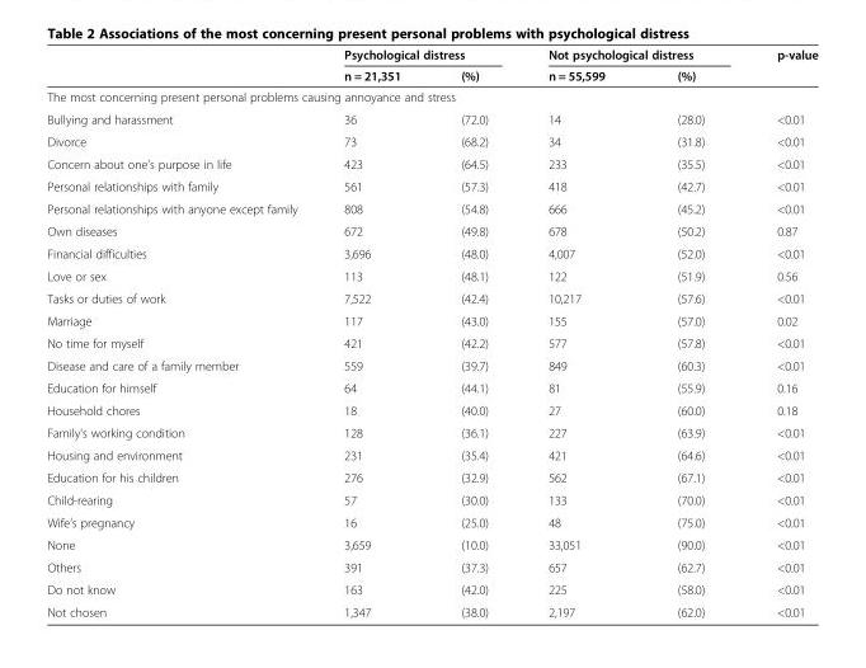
<table><thead><tr><td rowspan="2"></td><td colspan="2">Psychological distress</td><td colspan="2">Not psychological distress</td><td rowspan="2">p-value</td></tr><tr><td>n = 21,351</td><td>(%)</td><td>n = 55,599</td><td>(%)</td></tr></thead><tbody><tr><td colspan="6">The most concerning present personal problems causing annoyance and stress</td></tr><tr><td>Bullying and harassment</td><td>36</td><td>(72.0)</td><td>14</td><td>(28.0)</td><td>&lt;0.01</td></tr><tr><td>Divorce</td><td>73</td><td>(68.2)</td><td>34</td><td>(31.8)</td><td>&lt;0.01</td></tr><tr><td>Concern about one’s purpose in life</td><td>423</td><td>(64.5)</td><td>233</td><td>(35.5)</td><td>&lt;0.01</td></tr><tr><td>Personal relationships with family</td><td>561</td><td>(57.3)</td><td>418</td><td>(42.7)</td><td>&lt;0.01</td></tr><tr><td>Personal relationships with anyone except family</td><td>808</td><td>(54.8)</td><td>666</td><td>(45.2)</td><td>&lt;0.01</td></tr><tr><td>Own diseases</td><td>672</td><td>(49.8)</td><td>678</td><td>(50.2)</td><td>0.87</td></tr><tr><td>Financial difficulties</td><td>3,696</td><td>(48.0)</td><td>4,007</td><td>(52.0)</td><td>&lt;0.01</td></tr><tr><td>Love or sex</td><td>113</td><td>(48.1)</td><td>122</td><td>(51.9)</td><td>0.56</td></tr><tr><td>Tasks or duties of work</td><td>7,522</td><td>(42.4)</td><td>10,217</td><td>(57.6)</td><td>&lt;0.01</td></tr><tr><td>Marriage</td><td>117</td><td>(43.0)</td><td>155</td><td>(57.0)</td><td>0.02</td></tr><tr><td>No time for myself</td><td>421</td><td>(42.2)</td><td>577</td><td>(57.8)</td><td>&lt;0.01</td></tr><tr><td>Disease and care of a family member</td><td>559</td><td>(39.7)</td><td>849</td><td>(60.3)</td><td>&lt;0.01</td></tr><tr><td>Education for himself</td><td>64</td><td>(44.1)</td><td>81</td><td>(55.9)</td><td>0.16</td></tr><tr><td>Household chores</td><td>18</td><td>(40.0)</td><td>27</td><td>(60.0)</td><td>0.18</td></tr><tr><td>Family&#x27;s working condition</td><td>128</td><td>(36.1)</td><td>227</td><td>(63.9)</td><td>&lt;0.01</td></tr><tr><td>Housing and environment</td><td>231</td><td>(35.4)</td><td>421</td><td>(64.6)</td><td>&lt;0.01</td></tr><tr><td>Education for his children</td><td>276</td><td>(32.9)</td><td>562</td><td>(67.1)</td><td>&lt;0.01</td></tr><tr><td>Child-rearing</td><td>57</td><td>(30.0)</td><td>133</td><td>(70.0)</td><td>&lt;0.01</td></tr><tr><td>Wife’s pregnancy</td><td>16</td><td>(25.0)</td><td>48</td><td>(75.0)</td><td>&lt;0.01</td></tr><tr><td>None</td><td>3,659</td><td>(10.0)</td><td>33,051</td><td>(90.0)</td><td>&lt;0.01</td></tr><tr><td>Others</td><td>391</td><td>(37.3)</td><td>657</td><td>(62.7)</td><td>&lt;0.01</td></tr><tr><td>Do not know</td><td>163</td><td>(42.0)</td><td>225</td><td>(58.0)</td><td>&lt;0.01</td></tr><tr><td>Not chosen</td><td>1,347</td><td>(38.0)</td><td>2,197</td><td>(62.0)</td><td>&lt;0.01</td></tr></tbody></table>